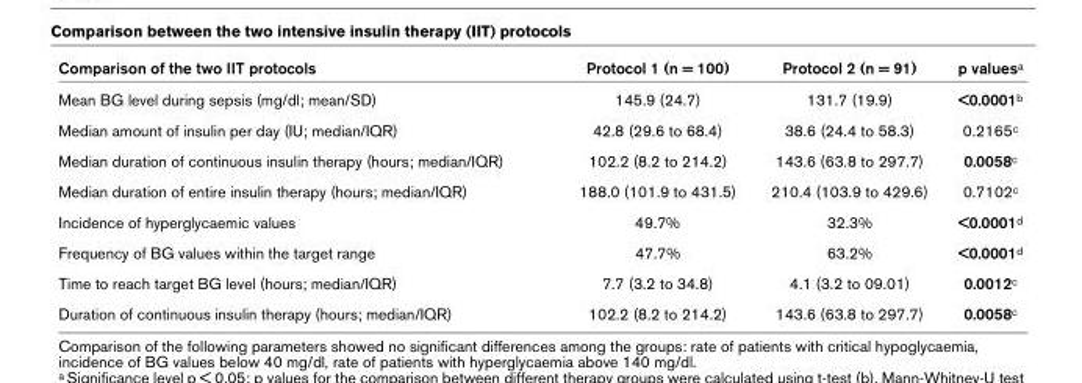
<table><thead><tr><td>Comparison of the two IIT protocols</td><td>Protocol 1 (n = 100)</td><td>Protocol 2 (n = 91)</td><td>p values<sup>a</sup></td></tr></thead><tbody><tr><td>Mean BG level during sepsis (mg/dl; mean/SD)</td><td>145.9 (24.7)</td><td>131.7 (19.9)</td><td>&lt;0.0001<sup>b</sup></td></tr><tr><td>Median amount of insulin per day (IU; median/IQR)</td><td>42.8 (29.6 to 68.4)</td><td>38.6 (24.4 to 58.3)</td><td>0.2165<sup>c</sup></td></tr><tr><td>Median duration of continuous insulin therapy (hours; median/IQR)</td><td>102.2 (8.2 to 214.2)</td><td>143.6 (63.8 to 297.7)</td><td>0.0058<sup>c</sup></td></tr><tr><td>Median duration of entire insulin therapy (hours; median/IQR)</td><td>188.0 (101.9 to 431.5)</td><td>210.4 (103.9 to 429.6)</td><td>0.7102<sup>c</sup></td></tr><tr><td>Incidence of hyperglycaemic values</td><td>49.7%</td><td>32.3%</td><td>&lt;0.0001<sup>d</sup></td></tr><tr><td>Frequency of BG values within the target range</td><td>47.7%</td><td>63.2%</td><td>&lt;0.0001<sup>d</sup></td></tr><tr><td>Time to reach target BG level (hours; median/IQR)</td><td>7.7 (3.2 to 34.8)</td><td>4.1 (3.2 to 09.01)</td><td>0.0012<sup>c</sup></td></tr><tr><td>Duration of continuous insulin therapy (hours; median/IQR)</td><td>102.2 (8.2 to 214.2)</td><td>143.6 (63.8 to 297.7)</td><td>0.0058<sup>c</sup></td></tr></tbody></table>